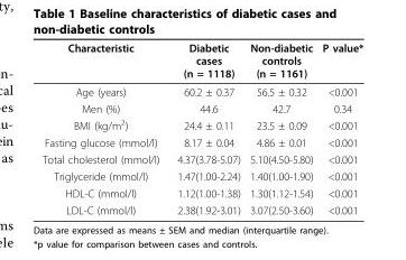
<table><thead><tr><td>Characteristic</td><td>Diabetic cases (n = 1118)</td><td>Non-diabetic controls (n = 1161)</td><td>P value*</td></tr></thead><tbody><tr><td>Age (years)</td><td>60.2 ± 0.37</td><td>56.5 ± 0.32</td><td>&lt;0.001</td></tr><tr><td>Men (%)</td><td>44.6</td><td>42.7</td><td>0.34</td></tr><tr><td>BMI (kg/m<sup>2</sup>)</td><td>24.4 ± 0.11</td><td>23.5 ± 0.09</td><td>&lt;0.001</td></tr><tr><td>Fasting glucose (mmol/l)</td><td>8.17 ± 0.04</td><td>4.86 ± 0.01</td><td>&lt;0.001</td></tr><tr><td>Total cholesterol (mmol/l)</td><td>4.37(3.78-5.07)</td><td>5.10(4.50-5.80)</td><td>&lt;0.001</td></tr><tr><td>Triglyceride (mmol/l)</td><td>1.47(1.00-2.24)</td><td>1.40(1.00-1.90)</td><td>&lt;0.001</td></tr><tr><td>HDL-C (mmol/l)</td><td>1.12(1.00-1.38)</td><td>1.30(1.12-1.54)</td><td>&lt;0.001</td></tr><tr><td>LDL-C (mmol/l)</td><td>2.38(1.92-3.01)</td><td>3.07(2.50-3.60)</td><td>&lt;0.001</td></tr></tbody></table>